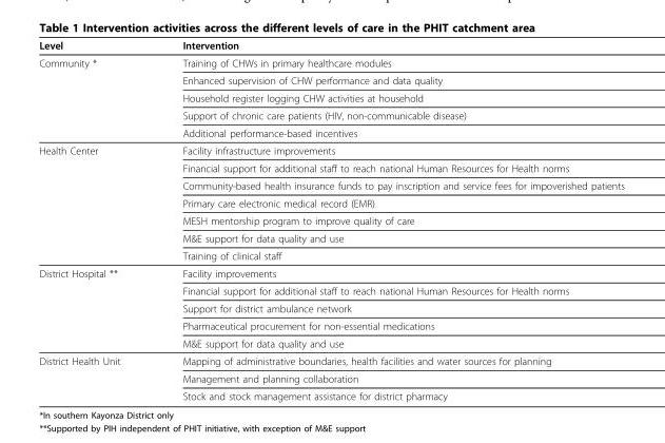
<table><thead><tr><td>Level</td><td>Intervention</td></tr></thead><tbody><tr><td rowspan="5">Community *</td><td>Training of CHWs in primary healthcare modules</td></tr><tr><td>Enhanced supervision of CHW performance and data quality</td></tr><tr><td>Household register logging CHW activities at household</td></tr><tr><td>Support of chronic care patients (HIV, non-communicable disease)</td></tr><tr><td>Additional performance-based incentives</td></tr><tr><td rowspan="7">Health Center</td><td>Facility infrastructure improvements</td></tr><tr><td>Financial support for additional staff to reach national Human Resources for Health norms</td></tr><tr><td>Community-based health insurance funds to pay inscription and service fees for impoverished patients</td></tr><tr><td>Primary care electronic medical record (EMR)</td></tr><tr><td>MESH mentorship program to improve quality of care</td></tr><tr><td>M&amp;E support for data quality and use</td></tr><tr><td>Training of clinical staff</td></tr><tr><td rowspan="5">District Hospital **</td><td>Facility improvements</td></tr><tr><td>Financial support for additional staff to reach national Human Resources for Health norms</td></tr><tr><td>Support for district ambulance network</td></tr><tr><td>Pharmaceutical procurement for non-essential medications</td></tr><tr><td>M&amp;E support for data quality and use</td></tr><tr><td rowspan="3">District Health Unit</td><td>Mapping of administrative boundaries, health facilities and water sources for planning</td></tr><tr><td>Management and planning collaboration</td></tr><tr><td>Stock and stock management assistance for district pharmacy</td></tr></tbody></table>